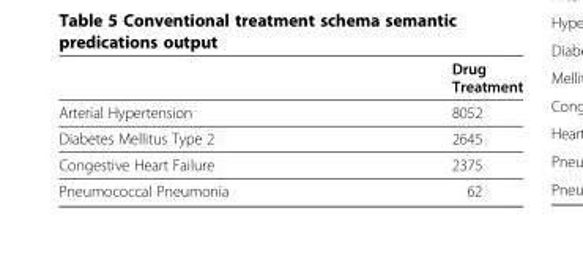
<table><thead><tr><td></td><td>Drug Treatment</td></tr></thead><tbody><tr><td>Arterial Hypertension</td><td>8052</td></tr><tr><td>Diabetes Mellitus Type 2</td><td>2645</td></tr><tr><td>Congestive Heart Failure</td><td>2375</td></tr><tr><td>Pneumococcal Pneumonia</td><td>62</td></tr></tbody></table>